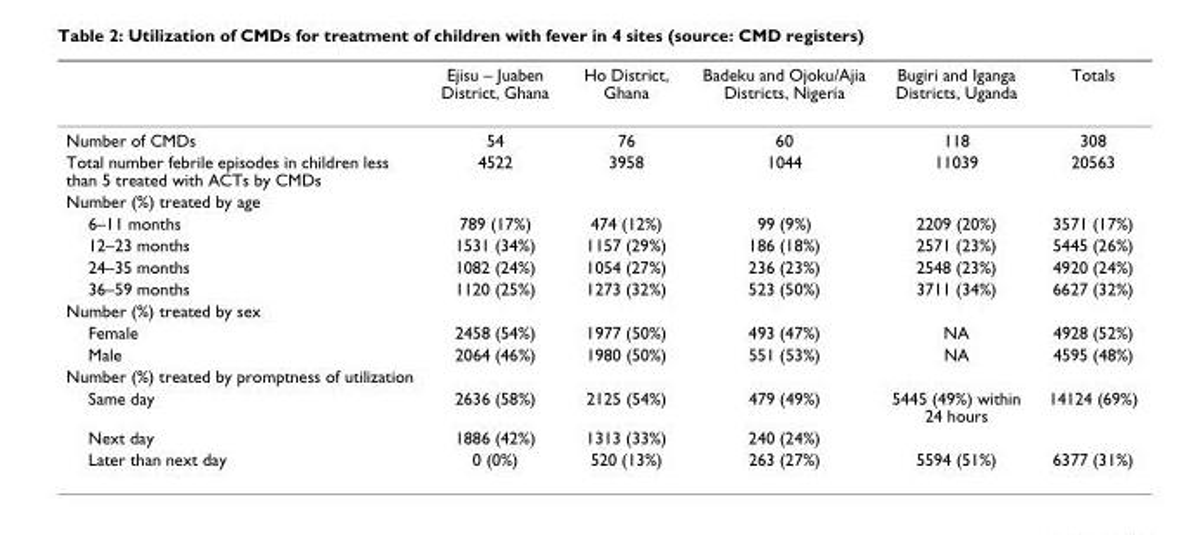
<table><thead><tr><td></td><td>Ejisu – Juaben District, Ghana</td><td>Ho District, Ghana</td><td>Badeku and Ojoku/Ajia Districts, Nigeria</td><td>Bugiri and Iganga Districts, Uganda</td><td>Totals</td></tr></thead><tbody><tr><td>Number of CMDs</td><td>54</td><td>76</td><td>60</td><td>118</td><td>308</td></tr><tr><td>Total number febrile episodes in children less than 5 treated with ACTs by CMDs</td><td>4522</td><td>3958</td><td>1044</td><td>11039</td><td>20563</td></tr><tr><td colspan="6">Number (%) treated by age</td></tr><tr><td>6–11 months</td><td>789 (17%)</td><td>474 (12%)</td><td>99 (9%)</td><td>2209 (20%)</td><td>3571 (17%)</td></tr><tr><td>12–23 months</td><td>1531 (34%)</td><td>1157 (29%)</td><td>186 (18%)</td><td>2571 (23%)</td><td>5445 (26%)</td></tr><tr><td>24–35 months</td><td>1082 (24%)</td><td>1054 (27%)</td><td>236 (23%)</td><td>2548 (23%)</td><td>4920 (24%)</td></tr><tr><td>36–59 months</td><td>1120 (25%)</td><td>1273 (32%)</td><td>523 (50%)</td><td>3711 (34%)</td><td>6627 (32%)</td></tr><tr><td colspan="6">Number (%) treated by sex</td></tr><tr><td>Female</td><td>2458 (54%)</td><td>1977 (50%)</td><td>493 (47%)</td><td>NA</td><td>4928 (52%)</td></tr><tr><td>Male</td><td>2064 (46%)</td><td>1980 (50%)</td><td>551 (53%)</td><td>NA</td><td>4595 (48%)</td></tr><tr><td colspan="6">Number (%) treated by promptness of utilization</td></tr><tr><td>Same day</td><td>2636 (58%)</td><td>2125 (54%)</td><td>479 (49%)</td><td>5445 (49%) within 24 hours</td><td>14124 (69%)</td></tr><tr><td>Next day</td><td>1886 (42%)</td><td>1313 (33%)</td><td>240 (24%)</td><td></td><td></td></tr><tr><td>Later than next day</td><td>0 (0%)</td><td>520 (13%)</td><td>263 (27%)</td><td>5594 (51%)</td><td>6377 (31%)</td></tr></tbody></table>